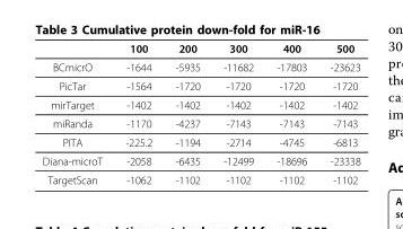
<table><thead><tr><td></td><td>100</td><td>200</td><td>300</td><td>400</td><td>500</td></tr></thead><tbody><tr><td>BCmicrO</td><td>-1644</td><td>-5935</td><td>-11682</td><td>-17803</td><td>-23623</td></tr><tr><td>PicTar</td><td>-1564</td><td>-1720</td><td>-1720</td><td>-1720</td><td>-1720</td></tr><tr><td>mirTarget</td><td>-1402</td><td>-1402</td><td>-1402</td><td>-1402</td><td>-1402</td></tr><tr><td>miRanda</td><td>-1170</td><td>-4237</td><td>-7143</td><td>-7143</td><td>-7143</td></tr><tr><td>PITA</td><td>-225.2</td><td>-1194</td><td>-2714</td><td>-4745</td><td>-6813</td></tr><tr><td>Diana-microT</td><td>-2058</td><td>-6435</td><td>-12499</td><td>-18696</td><td>-23338</td></tr><tr><td>TargetScan</td><td>-1062</td><td>-1102</td><td>-1102</td><td>-1102</td><td>-1102</td></tr></tbody></table>